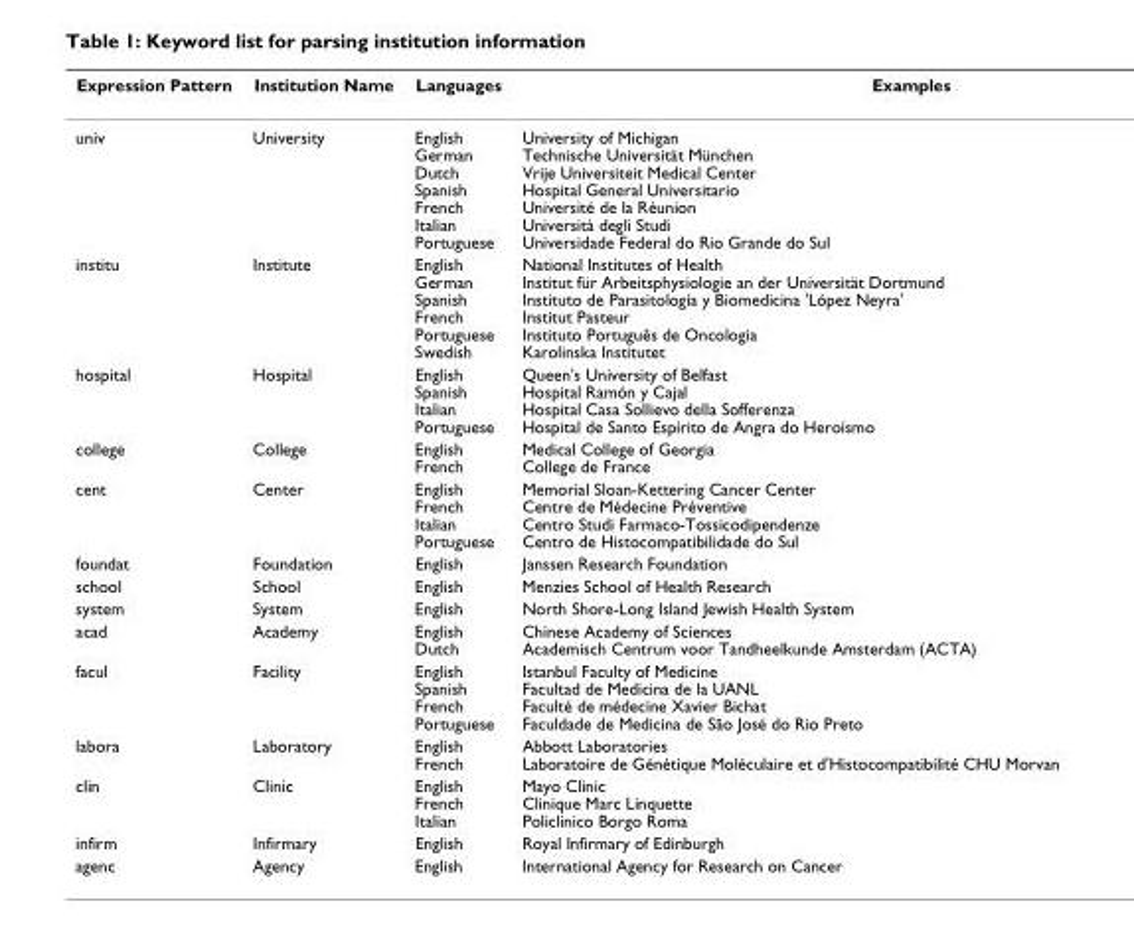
<table><thead><tr><td>Expression Pattern</td><td>Institution Name</td><td>Languages</td><td>Examples</td></tr></thead><tbody><tr><td>univ</td><td>University</td><td>English German Dutch Spanish French Italian Portuguese</td><td>University of Michigan Technische Universität München Vrije Universiteit Medical Center Hospital General Universitario Université de la Réunion Università degli Studi Universidade Federal do Rio Grande do Sul</td></tr><tr><td>institu</td><td>Institute</td><td>English German Spanish French Portuguese Swedish</td><td>National Institutes of Health Institut für Arbeitsphysiologie an der Universität Dortmund Instituto de Parasitología y Biomedicina &#x27;López Neyra&#x27; Institut Pasteur Instituto Português de Oncologia Karolinska Institutet</td></tr><tr><td>hospital</td><td>Hospital</td><td>English Spanish Italian Portuguese</td><td>Queen&#x27;s University of Belfast Hospital Ramón y Cajal Hospital Casa Sollievo della Sofferenza Hospital de Santo Espírito de Angra do Heroísmo</td></tr><tr><td>college</td><td>College</td><td>English French</td><td>Medical College of Georgia College de France</td></tr><tr><td>cent</td><td>Center</td><td>English French Italian Portuguese</td><td>Memorial Sloan-Kettering Cancer Center Centre de Médecine Préventive Centro Studi Farmaco-Tossicodipendenze Centro de Histocompatibilidade do Sul</td></tr><tr><td>foundat</td><td>Foundation</td><td>English</td><td>Janssen Research Foundation</td></tr><tr><td>school</td><td>School</td><td>English</td><td>Menzies School of Health Research</td></tr><tr><td>system</td><td>System</td><td>English</td><td>North Shore-Long Island Jewish Health System</td></tr><tr><td>acad</td><td>Academy</td><td>English Dutch</td><td>Chinese Academy of Sciences Academisch Centrum voor Tandheelkunde Amsterdam (ACTA)</td></tr><tr><td>facul</td><td>Facility</td><td>English Spanish French Portuguese</td><td>Istanbul Faculty of Medicine Facultad de Medicina de la UANL Faculté de médecine Xavier Bichat Faculdade de Medicina de São José do Rio Preto</td></tr><tr><td>labora</td><td>Laboratory</td><td>English French</td><td>Abbott Laboratories Laboratoire de Génétique Moléculaire et d&#x27;Histocompatibilité CHU Morvan</td></tr><tr><td>clin</td><td>Clinic</td><td>English French Italian</td><td>Mayo Clinic Clinique Marc Linquette Policlinico Borgo Roma</td></tr><tr><td>infirm</td><td>Infirmary</td><td>English</td><td>Royal Infirmary of Edinburgh</td></tr><tr><td>agenc</td><td>Agency</td><td>English</td><td>International Agency for Research on Cancer</td></tr></tbody></table>